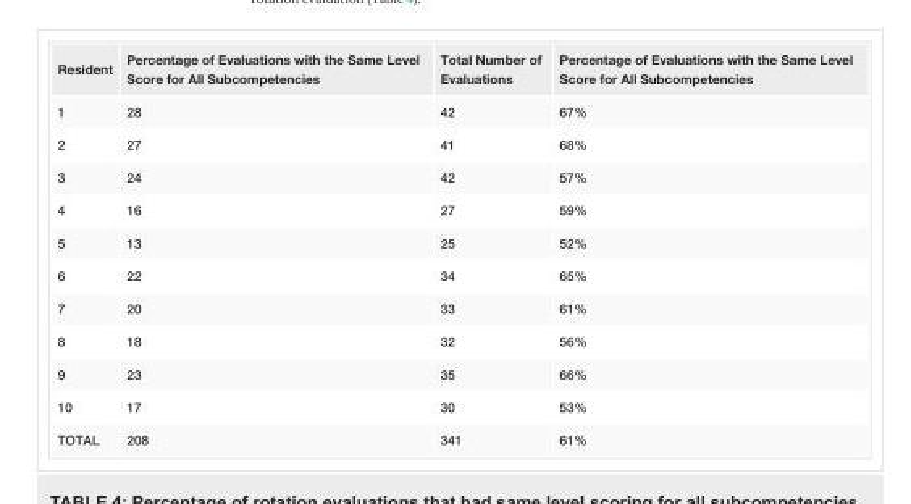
<table><tbody><tr><td>Resident</td><td>Percentage of Evaluations with the Same Level Score for All Subcompetencies</td><td>Total Number of Evaluations</td><td>Percentage of Evaluations with the Same Level Score for All Subcompetencies</td></tr><tr><td>1</td><td>28</td><td>42</td><td>67%</td></tr><tr><td>2</td><td>27</td><td>41</td><td>68%</td></tr><tr><td>3</td><td>24</td><td>42</td><td>57%</td></tr><tr><td>4</td><td>16</td><td>27</td><td>59%</td></tr><tr><td>5</td><td>13</td><td>25</td><td>52%</td></tr><tr><td>6</td><td>22</td><td>34</td><td>65%</td></tr><tr><td>7</td><td>20</td><td>33</td><td>61%</td></tr><tr><td>8</td><td>18</td><td>32</td><td>56%</td></tr><tr><td>9</td><td>23</td><td>35</td><td>66%</td></tr><tr><td>10</td><td>17</td><td>30</td><td>53%</td></tr><tr><td>TOTAL</td><td>208</td><td>341</td><td>61%</td></tr></tbody></table>